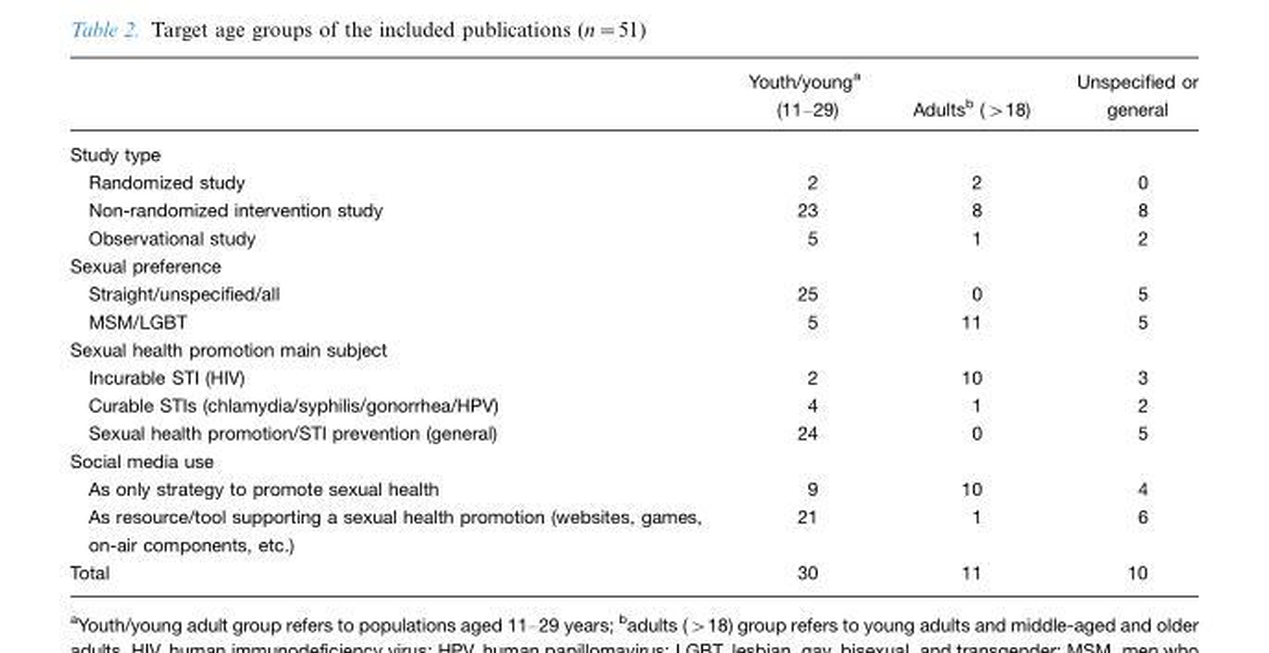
<table><thead><tr><td></td><td>Youth/young<sup>a</sup> (11–29)</td><td>Adults<sup>b</sup> (&gt;18)</td><td>Unspecified or general</td></tr></thead><tbody><tr><td colspan="4">Study type</td></tr><tr><td>Randomized study</td><td>2</td><td>2</td><td>0</td></tr><tr><td>Non-randomized intervention study</td><td>23</td><td>8</td><td>8</td></tr><tr><td>Observational study</td><td>5</td><td>1</td><td>2</td></tr><tr><td colspan="4">Sexual preference</td></tr><tr><td>Straight/unspecified/all</td><td>25</td><td>0</td><td>5</td></tr><tr><td>MSM/LGBT</td><td>5</td><td>11</td><td>5</td></tr><tr><td colspan="4">Sexual health promotion main subject</td></tr><tr><td>Incurable STI (HIV)</td><td>2</td><td>10</td><td>3</td></tr><tr><td>Curable STIs (chlamydia/syphilis/gonorrhea/HPV)</td><td>4</td><td>1</td><td>2</td></tr><tr><td>Sexual health promotion/STI prevention (general)</td><td>24</td><td>0</td><td>5</td></tr><tr><td colspan="4">Social media use</td></tr><tr><td>As only strategy to promote sexual health</td><td>9</td><td>10</td><td>4</td></tr><tr><td>As resource/tool supporting a sexual health promotion (websites, games, on-air components, etc.)</td><td>21</td><td>1</td><td>6</td></tr><tr><td>Total</td><td>30</td><td>11</td><td>10</td></tr></tbody></table>